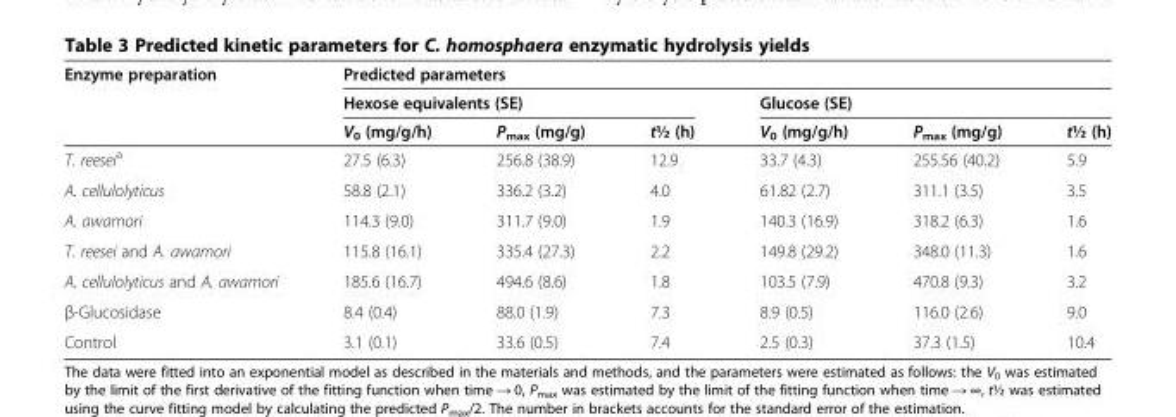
<table><thead><tr><td rowspan="3">Enzyme preparation</td><td colspan="6">Predicted parameters</td></tr><tr><td colspan="3">Hexose equivalents (SE)</td><td colspan="3">Glucose (SE)</td></tr><tr><td>V<sub>0</sub> (mg/g/h)</td><td>P<sub>max</sub> (mg/g)</td><td>t½ (h)</td><td>V<sub>0</sub> (mg/g/h)</td><td>P<sub>max</sub> (mg/g)</td><td>t½ (h)</td></tr></thead><tbody><tr><td>T. reesei<sup>a</sup></td><td>27.5 (6.3)</td><td>256.8 (38.9)</td><td>12.9</td><td>33.7 (4.3)</td><td>255.56 (40.2)</td><td>5.9</td></tr><tr><td>A. cellulolyticus</td><td>58.8 (2.1)</td><td>336.2 (3.2)</td><td>4.0</td><td>61.82 (2.7)</td><td>311.1 (3.5)</td><td>3.5</td></tr><tr><td>A. awamori</td><td>114.3 (9.0)</td><td>311.7 (9.0)</td><td>1.9</td><td>140.3 (16.9)</td><td>318.2 (6.3)</td><td>1.6</td></tr><tr><td>T. reesei and A. awamori</td><td>115.8 (16.1)</td><td>335.4 (27.3)</td><td>2.2</td><td>149.8 (29.2)</td><td>348.0 (11.3)</td><td>1.6</td></tr><tr><td>A. cellulolyticus and A. awamori</td><td>185.6 (16.7)</td><td>494.6 (8.6)</td><td>1.8</td><td>103.5 (7.9)</td><td>470.8 (9.3)</td><td>3.2</td></tr><tr><td>β-Glucosidase</td><td>8.4 (0.4)</td><td>88.0 (1.9)</td><td>7.3</td><td>8.9 (0.5)</td><td>116.0 (2.6)</td><td>9.0</td></tr><tr><td>Control</td><td>3.1 (0.1)</td><td>33.6 (0.5)</td><td>7.4</td><td>2.5 (0.3)</td><td>37.3 (1.5)</td><td>10.4</td></tr></tbody></table>